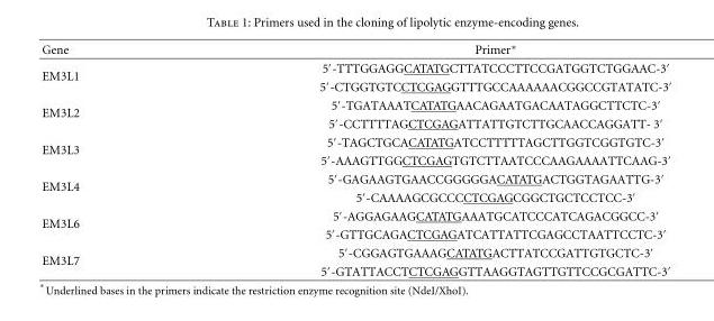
<table><thead><tr><td>Gene</td><td>Primer∗</td></tr></thead><tbody><tr><td rowspan="2">EM3L1</td><td>5′-TTTGGAGGCATATGCTTATCCCTTCCGATGGTCTGGAAC-3′</td></tr><tr><td>5′-CTGGTGTCCTCGAGGTTTGCCAAAAAACGGCCGTATATC-3′</td></tr><tr><td rowspan="2">EM3L2</td><td>5′-TGATAAATCATATGAACAGAATGACAATAGGCTTCTC-3′</td></tr><tr><td>5′-CCTTTTAGCTCGAGATTATTGTCTTGCAACCAGGATT- 3′</td></tr><tr><td rowspan="2">EM3L3</td><td>5′-TAGCTGCACATATGATCCTTTTTAGCTTGGTCGGTGTC-3′</td></tr><tr><td>5′-AAAGTTGGCTCGAGTGTCTTAATCCCAAGAAAATTCAAG-3′</td></tr><tr><td rowspan="2">EM3L4</td><td>5′-GAGAAGTGAACCGGGGGACATATGACTGGTAGAATTG-3′</td></tr><tr><td>5′-CAAAAGCGCCCCTCGAGCGGCTGCTCCTCC-3′</td></tr><tr><td rowspan="2">EM3L6</td><td>5′-AGGAGAAGCATATGAAATGCATCCCATCAGACGGCC-3′</td></tr><tr><td>5′-GTTGCAGACTCGAGATCATTATTCGAGCCTAATTCCTC-3′</td></tr><tr><td rowspan="2">EM3L7</td><td>5′-CGGAGTGAAAGCATATGACTTATCCGATTGTGCTC-3′</td></tr><tr><td>5′-GTATTACCTCTCGAGGTTAAGGTAGTTGTTCCGCGATTC-3′</td></tr></tbody></table>